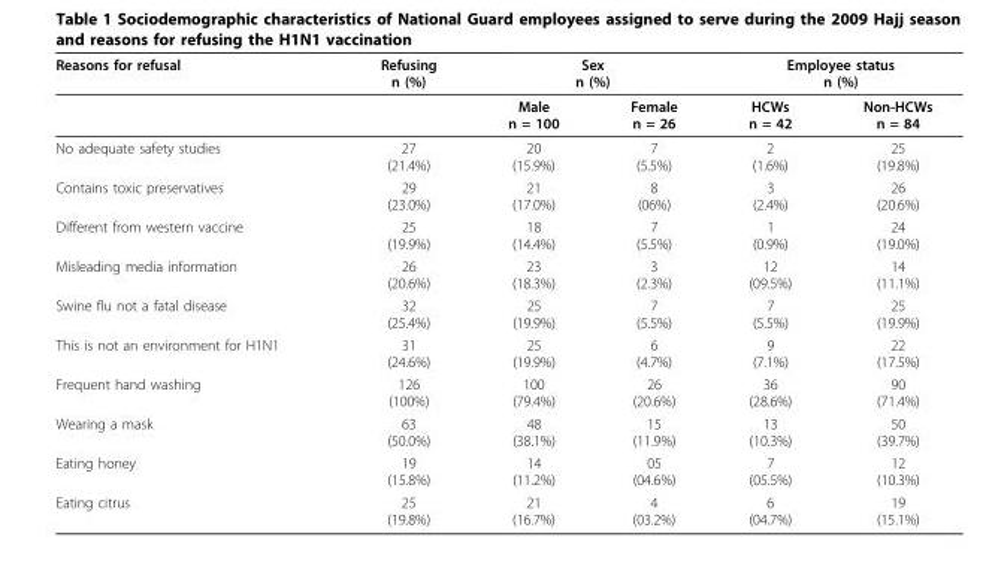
<table><thead><tr><td rowspan="2">Reasons for refusal</td><td rowspan="2">Refusing n (%)</td><td colspan="2">Sex n (%)</td><td colspan="2">Employee status n (%)</td></tr><tr><td>Male n = 100</td><td>Female n = 26</td><td>HCWs n = 42</td><td>Non-HCWs n = 84</td></tr></thead><tbody><tr><td>No adequate safety studies</td><td>27 (21.4%)</td><td>20 (15.9%)</td><td>7 (5.5%)</td><td>2 (1.6%)</td><td>25 (19.8%)</td></tr><tr><td>Contains toxic preservatives</td><td>29 (23.0%)</td><td>21 (17.0%)</td><td>8 (06%)</td><td>3 (2.4%)</td><td>26 (20.6%)</td></tr><tr><td>Different from western vaccine</td><td>25 (19.9%)</td><td>18 (14.4%)</td><td>7 (5.5%)</td><td>1 (0.9%)</td><td>24 (19.0%)</td></tr><tr><td>Misleading media information</td><td>26 (20.6%)</td><td>23 (18.3%)</td><td>3 (2.3%)</td><td>12 (09.5%)</td><td>14 (11.1%)</td></tr><tr><td>Swine flu not a fatal disease</td><td>32 (25.4%)</td><td>25 (19.9%)</td><td>7 (5.5%)</td><td>7 (5.5%)</td><td>25 (19.9%)</td></tr><tr><td>This is not an environment for H1N1</td><td>31 (24.6%)</td><td>25 (19.9%)</td><td>6 (4.7%)</td><td>9 (7.1%)</td><td>22 (17.5%)</td></tr><tr><td>Frequent hand washing</td><td>126 (100%)</td><td>100 (79.4%)</td><td>26 (20.6%)</td><td>36 (28.6%)</td><td>90 (71.4%)</td></tr><tr><td>Wearing a mask</td><td>63 (50.0%)</td><td>48 (38.1%)</td><td>15 (11.9%)</td><td>13 (10.3%)</td><td>50 (39.7%)</td></tr><tr><td>Eating honey</td><td>19 (15.8%)</td><td>14 (11.2%)</td><td>05 (04.6%)</td><td>7 (05.5%)</td><td>12 (10.3%)</td></tr><tr><td>Eating citrus</td><td>25 (19.8%)</td><td>21 (16.7%)</td><td>4 (03.2%)</td><td>6 (04.7%)</td><td>19 (15.1%)</td></tr></tbody></table>